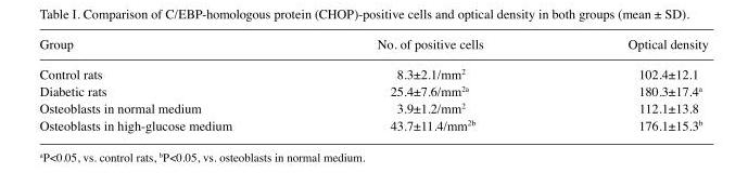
<table><thead><tr><td>Group</td><td>No. of positive cells</td><td>Optical density</td></tr></thead><tbody><tr><td>Control rats</td><td>8.3±2.1/mm<sup>2</sup></td><td>102.4±12.1</td></tr><tr><td>Diabetic rats</td><td>25.4±7.6/mm<sup>2a</sup></td><td>180.3±17.4<sup>a</sup></td></tr><tr><td>Osteoblasts in normal medium</td><td>3.9±1.2/mm<sup>2</sup></td><td>112.1±13.8</td></tr><tr><td>Osteoblasts in high-glucose medium</td><td>43.7±11.4/mm<sup>2b</sup></td><td>176.1±15.3<sup>b</sup></td></tr></tbody></table>